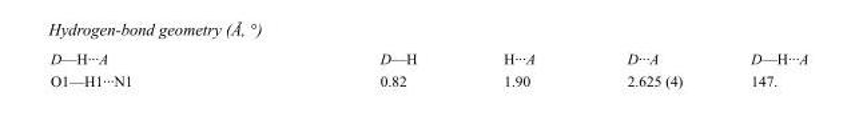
<table><tbody><tr><td>D—H···A</td><td>D—H</td><td>H···A</td><td>D···A</td><td>D—H···A</td></tr><tr><td>O1—H1···N1</td><td>0.82</td><td>1.90</td><td>2.625 (4)</td><td>147.</td></tr></tbody></table>